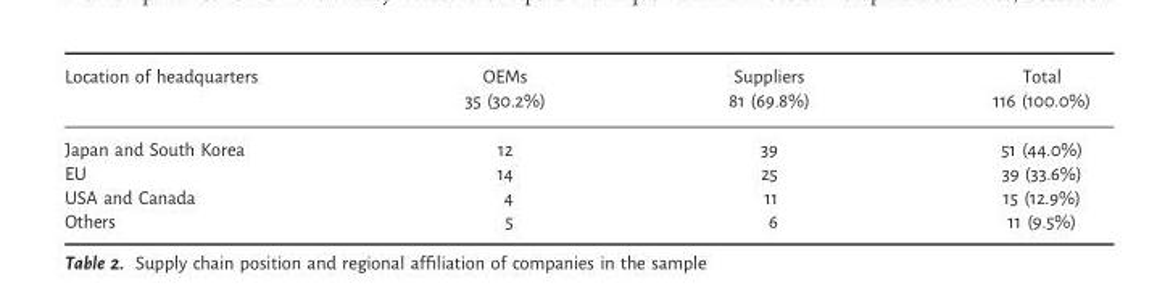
<table><thead><tr><td>Location of headquarters</td><td>OEMs</td><td>Suppliers</td><td>Total</td></tr></thead><tbody><tr><td></td><td>35 (30.2%)</td><td>81 (69.8%)</td><td>116 (100.0%)</td></tr><tr><td>Japan and South Korea</td><td>12</td><td>39</td><td>51 (44.0%)</td></tr><tr><td>EU</td><td>14</td><td>25</td><td>39 (33.6%)</td></tr><tr><td>USA and Canada</td><td>4</td><td>11</td><td>15 (12.9%)</td></tr><tr><td>Others</td><td>5</td><td>6</td><td>11 (9.5%)</td></tr></tbody></table>